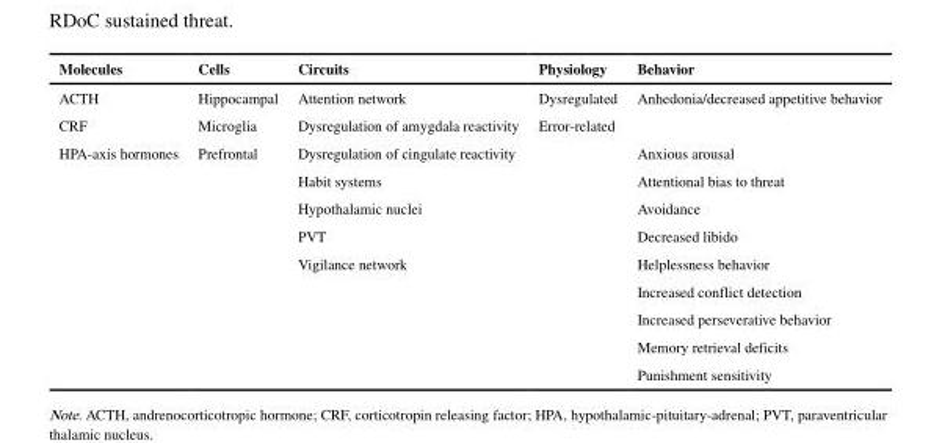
<table><thead><tr><td>Molecules</td><td>Cells</td><td>Circuits</td><td>Physiology</td><td>Behavior</td></tr></thead><tbody><tr><td>ACTH</td><td>Hippocampal</td><td>Attention network</td><td>Dysregulated</td><td rowspan="2">Anhedonia/decreased appetitive behavior</td></tr><tr><td>CRF</td><td>Microglia</td><td>Dysregulation of amygdala reactivity</td><td>Error-related</td></tr><tr><td rowspan="9">HPA-axis hormones</td><td>Prefrontal</td><td>Dysregulation of cingulate reactivity</td><td></td><td>Anxious arousal</td></tr><tr><td></td><td>Habit systems</td><td></td><td>Attentional bias to threat</td></tr><tr><td></td><td>Hypothalamic nuclei</td><td></td><td>Avoidance</td></tr><tr><td></td><td>PVT</td><td></td><td>Decreased libido</td></tr><tr><td></td><td>Vigilance network</td><td></td><td>Helplessness behavior</td></tr><tr><td></td><td></td><td></td><td>Increased conflict detection</td></tr><tr><td></td><td></td><td></td><td>Increased perseverative behavior</td></tr><tr><td></td><td></td><td></td><td>Memory retrieval deficits</td></tr><tr><td></td><td></td><td></td><td>Punishment sensitivity</td></tr></tbody></table>